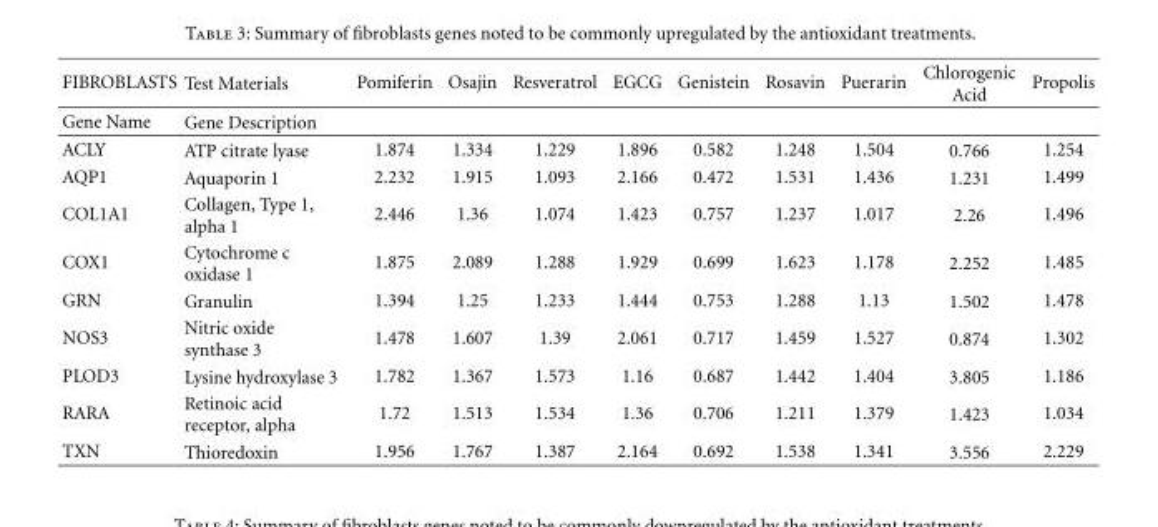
<table><thead><tr><td>FIBROBLASTS</td><td>Test Materials</td><td>Pomiferin</td><td>Osajin</td><td>Resveratrol</td><td>EGCG</td><td>Genistein</td><td>Rosavin</td><td>Puerarin</td><td>Chlorogenic Acid</td><td>Propolis</td></tr></thead><tbody><tr><td>Gene Name</td><td>Gene Description</td><td></td><td></td><td></td><td></td><td></td><td></td><td></td><td></td><td></td></tr><tr><td>ACLY</td><td>ATP citrate lyase</td><td>1.874</td><td>1.334</td><td>1.229</td><td>1.896</td><td>0.582</td><td>1.248</td><td>1.504</td><td>0.766</td><td>1.254</td></tr><tr><td>AQP1</td><td>Aquaporin 1</td><td>2.232</td><td>1.915</td><td>1.093</td><td>2.166</td><td>0.472</td><td>1.531</td><td>1.436</td><td>1.231</td><td>1.499</td></tr><tr><td>COL1A1</td><td>Collagen, Type 1, alpha 1</td><td>2.446</td><td>1.36</td><td>1.074</td><td>1.423</td><td>0.757</td><td>1.237</td><td>1.017</td><td>2.26</td><td>1.496</td></tr><tr><td>COX1</td><td>Cytochrome c oxidase 1</td><td>1.875</td><td>2.089</td><td>1.288</td><td>1.929</td><td>0.699</td><td>1.623</td><td>1.178</td><td>2.252</td><td>1.485</td></tr><tr><td>GRN</td><td>Granulin</td><td>1.394</td><td>1.25</td><td>1.233</td><td>1.444</td><td>0.753</td><td>1.288</td><td>1.13</td><td>1.502</td><td>1.478</td></tr><tr><td>NOS3</td><td>Nitric oxide synthase 3</td><td>1.478</td><td>1.607</td><td>1.39</td><td>2.061</td><td>0.717</td><td>1.459</td><td>1.527</td><td>0.874</td><td>1.302</td></tr><tr><td>PLOD3</td><td>Lysine hydroxylase 3</td><td>1.782</td><td>1.367</td><td>1.573</td><td>1.16</td><td>0.687</td><td>1.442</td><td>1.404</td><td>3.805</td><td>1.186</td></tr><tr><td>RARA</td><td>Retinoic acid receptor, alpha</td><td>1.72</td><td>1.513</td><td>1.534</td><td>1.36</td><td>0.706</td><td>1.211</td><td>1.379</td><td>1.423</td><td>1.034</td></tr><tr><td>TXN</td><td>Thioredoxin</td><td>1.956</td><td>1.767</td><td>1.387</td><td>2.164</td><td>0.692</td><td>1.538</td><td>1.341</td><td>3.556</td><td>2.229</td></tr></tbody></table>